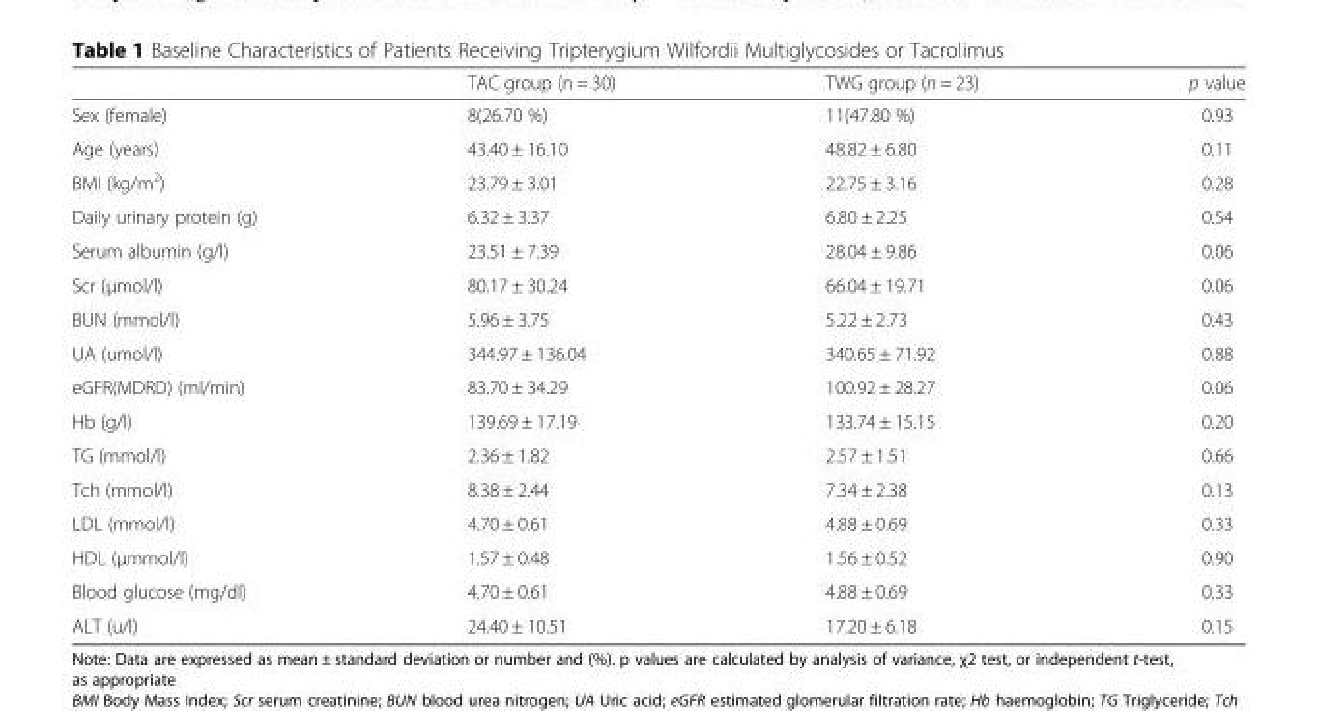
<table><thead><tr><td></td><td>TAC group (n = 30)</td><td>TWG group (n = 23)</td><td>p value</td></tr></thead><tbody><tr><td>Sex (female)</td><td>8(26.70 %)</td><td>11(47.80 %)</td><td>0.93</td></tr><tr><td>Age (years)</td><td>43.40 ± 16.10</td><td>48.82 ± 6.80</td><td>0.11</td></tr><tr><td>BMI (kg/m<sup>2</sup>)</td><td>23.79 ± 3.01</td><td>22.75 ± 3.16</td><td>0.28</td></tr><tr><td>Daily urinary protein (g)</td><td>6.32 ± 3.37</td><td>6.80 ± 2.25</td><td>0.54</td></tr><tr><td>Serum albumin (g/l)</td><td>23.51 ± 7.39</td><td>28.04 ± 9.86</td><td>0.06</td></tr><tr><td>Scr (μmol/l)</td><td>80.17 ± 30.24</td><td>66.04 ± 19.71</td><td>0.06</td></tr><tr><td>BUN (mmol/l)</td><td>5.96 ± 3.75</td><td>5.22 ± 2.73</td><td>0.43</td></tr><tr><td>UA (umol/l)</td><td>344.97 ± 136.04</td><td>340.65 ± 71.92</td><td>0.88</td></tr><tr><td>eGFR(MDRD) (ml/min)</td><td>83.70 ± 34.29</td><td>100.92 ± 28.27</td><td>0.06</td></tr><tr><td>Hb (g/l)</td><td>139.69 ± 17.19</td><td>133.74 ± 15.15</td><td>0.20</td></tr><tr><td>TG (mmol/l)</td><td>2.36 ± 1.82</td><td>2.57 ± 1.51</td><td>0.66</td></tr><tr><td>Tch (mmol/l)</td><td>8.38 ± 2.44</td><td>7.34 ± 2.38</td><td>0.13</td></tr><tr><td>LDL (mmol/l)</td><td>4.70 ± 0.61</td><td>4.88 ± 0.69</td><td>0.33</td></tr><tr><td>HDL (μmmol/l)</td><td>1.57 ± 0.48</td><td>1.56 ± 0.52</td><td>0.90</td></tr><tr><td>Blood glucose (mg/dl)</td><td>4.70 ± 0.61</td><td>4.88 ± 0.69</td><td>0.33</td></tr><tr><td>ALT (u/l)</td><td>24.40 ± 10.51</td><td>17.20 ± 6.18</td><td>0.15</td></tr></tbody></table>